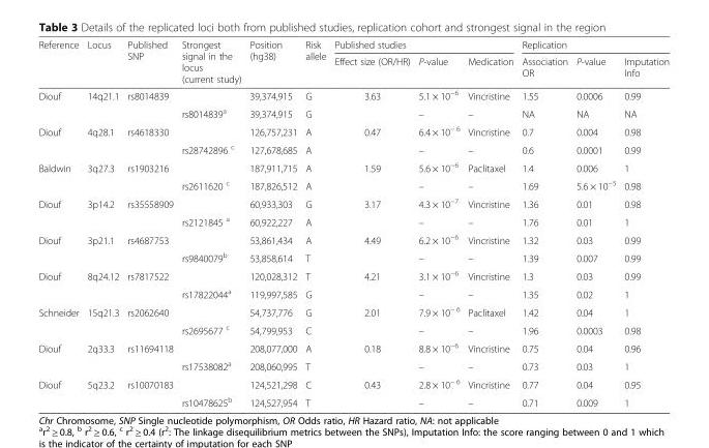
<table><thead><tr><td rowspan="2">Reference</td><td rowspan="2">Locus</td><td rowspan="2">Published SNP</td><td rowspan="2">Strongest signal in the locus (current study)</td><td rowspan="2">Position (hg38)</td><td rowspan="2">Risk allele</td><td colspan="3">Published studies</td><td colspan="3">Replication</td></tr><tr><td>Effect size (OR/HR)</td><td>P-value</td><td>Medication</td><td>Association OR</td><td>P-value</td><td>Imputation Info</td></tr></thead><tbody><tr><td rowspan="2">Diouf</td><td>14q21.1</td><td>rs8014839</td><td></td><td>39,374,915</td><td>G</td><td>3.63</td><td>5.1 × 10<sup>−6</sup></td><td>Vincristine</td><td>1.55</td><td>0.0006</td><td>0.99</td></tr><tr><td></td><td></td><td>rs8014839<sup>a</sup></td><td>39,374,915</td><td>G</td><td></td><td>–</td><td>–</td><td>NA</td><td>NA</td><td>NA</td></tr><tr><td rowspan="2">Diouf</td><td>4q28.1</td><td>rs4618330</td><td></td><td>126,757,231</td><td>A</td><td>0.47</td><td>6.4 × 10<sup>− 6</sup></td><td>Vincristine</td><td>0.7</td><td>0.004</td><td>0.98</td></tr><tr><td></td><td></td><td>rs28742896 <sup>c</sup></td><td>127,678,685</td><td>A</td><td></td><td>–</td><td>–</td><td>0.6</td><td>0.0001</td><td>0.99</td></tr><tr><td rowspan="2">Baldwin</td><td>3q27.3</td><td>rs1903216</td><td></td><td>187,911,715</td><td>A</td><td>1.59</td><td>5.6 × 10<sup>−6</sup></td><td>Paclitaxel</td><td>1.4</td><td>0.006</td><td>1</td></tr><tr><td></td><td></td><td>rs2611620 <sup>c</sup></td><td>187,826,512</td><td>A</td><td></td><td>–</td><td>–</td><td>1.69</td><td>5.6 × 10<sup>−5</sup></td><td>0.98</td></tr><tr><td rowspan="2">Diouf</td><td>3p14.2</td><td>rs35558909</td><td></td><td>60,933,303</td><td>G</td><td>3.17</td><td>4.3 × 10<sup>−7</sup></td><td>Vincristine</td><td>1.36</td><td>0.01</td><td>0.98</td></tr><tr><td></td><td></td><td>rs2121845 <sup>a</sup></td><td>60,922,227</td><td>A</td><td></td><td>–</td><td>–</td><td>1.76</td><td>0.01</td><td>1</td></tr><tr><td rowspan="2">Diouf</td><td>3p21.1</td><td>rs4687753</td><td></td><td>53,861,434</td><td>A</td><td>4.49</td><td>6.2 × 10<sup>−6</sup></td><td>Vincristine</td><td>1.32</td><td>0.03</td><td>0.99</td></tr><tr><td></td><td></td><td>rs9840079<sup>b</sup></td><td>53,858,614</td><td>T</td><td></td><td>–</td><td>–</td><td>1.39</td><td>0.007</td><td>0.99</td></tr><tr><td rowspan="2">Diouf</td><td>8q24.12</td><td>rs7817522</td><td></td><td>120,028,312</td><td>T</td><td>4.21</td><td>3.1 × 10<sup>−6</sup></td><td>Vincristine</td><td>1.3</td><td>0.03</td><td>0.99</td></tr><tr><td></td><td></td><td>rs17822044<sup>a</sup></td><td>119,997,585</td><td>G</td><td></td><td>–</td><td>–</td><td>1.35</td><td>0.02</td><td>1</td></tr><tr><td rowspan="2">Schneider</td><td>15q21.3</td><td>rs2062640</td><td></td><td>54,737,776</td><td>G</td><td>2.01</td><td>7.9 × 10<sup>− 6</sup></td><td>Paclitaxel</td><td>1.42</td><td>0.04</td><td>1</td></tr><tr><td></td><td></td><td>rs2695677 <sup>c</sup></td><td>54,799,953</td><td>C</td><td></td><td>–</td><td>–</td><td>1.96</td><td>0.0003</td><td>0.98</td></tr><tr><td rowspan="2">Diouf</td><td>2q33.3</td><td>rs11694118</td><td></td><td>208,077,000</td><td>A</td><td>0.18</td><td>8.8 × 10<sup>−6</sup></td><td>Vincristine</td><td>0.75</td><td>0.04</td><td>0.96</td></tr><tr><td></td><td></td><td>rs17538082<sup>a</sup></td><td>208,060,995</td><td>T</td><td></td><td>–</td><td>–</td><td>0.73</td><td>0.03</td><td>1</td></tr><tr><td rowspan="2">Diouf</td><td>5q23.2</td><td>rs10070183</td><td></td><td>124,521,298</td><td>C</td><td>0.43</td><td>2.8 × 10<sup>− 6</sup></td><td>Vincristine</td><td>0.77</td><td>0.04</td><td>0.95</td></tr><tr><td></td><td></td><td>rs10478625<sup>b</sup></td><td>124,527,954</td><td>T</td><td></td><td>–</td><td>–</td><td>0.71</td><td>0.009</td><td>1</td></tr></tbody></table>